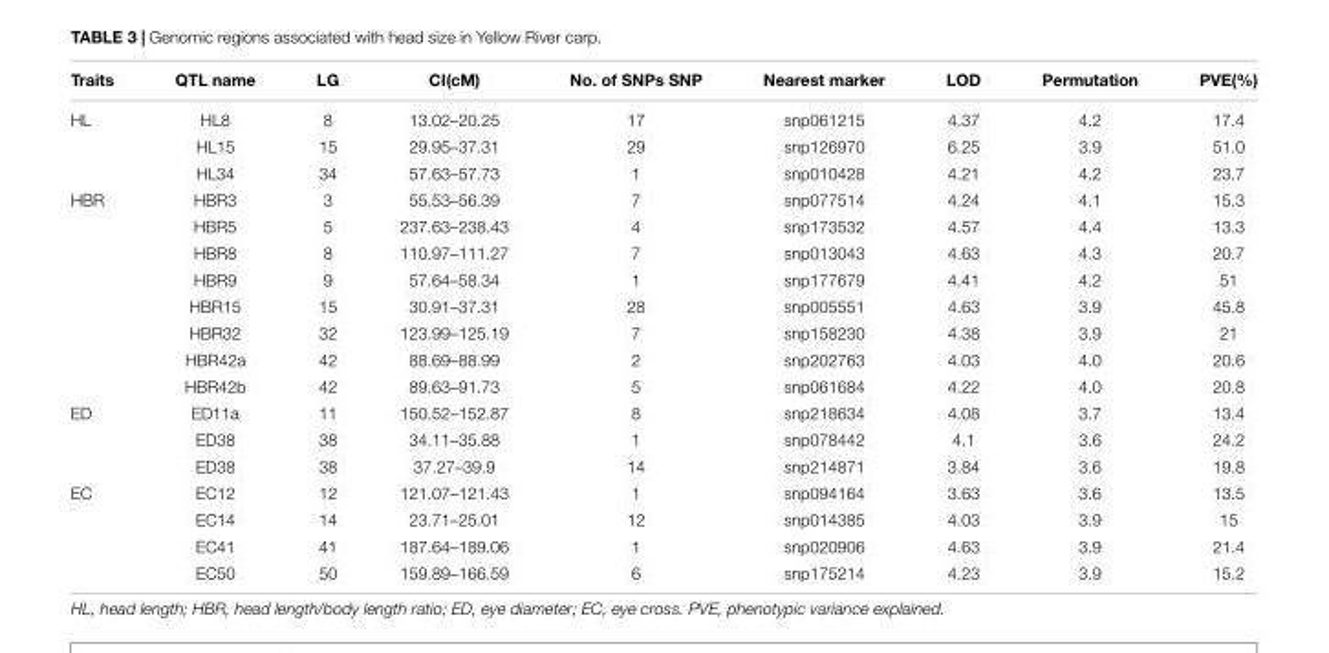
<table><thead><tr><td>Traits</td><td>QTL name</td><td>LG</td><td>CI(cM)</td><td>No. of SNPs SNP</td><td>Nearest marker</td><td>LOD</td><td>Permutation</td><td>PVE(%)</td></tr></thead><tbody><tr><td rowspan="3">HL</td><td>HL8</td><td>8</td><td>13.02–20.25</td><td>17</td><td>snp061215</td><td>4.37</td><td>4.2</td><td>17.4</td></tr><tr><td>HL15</td><td>15</td><td>29.95–37.31</td><td>29</td><td>snp126970</td><td>6.25</td><td>3.9</td><td>51.0</td></tr><tr><td>HL34</td><td>34</td><td>57.63–57.73</td><td>1</td><td>snp010428</td><td>4.21</td><td>4.2</td><td>23.7</td></tr><tr><td rowspan="8">HBR</td><td>HBR3</td><td>3</td><td>55.53–56.39</td><td>7</td><td>snp077514</td><td>4.24</td><td>4.1</td><td>15.3</td></tr><tr><td>HBR5</td><td>5</td><td>237.63–238.43</td><td>4</td><td>snp173532</td><td>4.57</td><td>4.4</td><td>13.3</td></tr><tr><td>HBR8</td><td>8</td><td>110.97–111.27</td><td>7</td><td>snp013043</td><td>4.63</td><td>4.3</td><td>20.7</td></tr><tr><td>HBR9</td><td>9</td><td>57.64–58.34</td><td>1</td><td>snp177679</td><td>4.41</td><td>4.2</td><td>51</td></tr><tr><td>HBR15</td><td>15</td><td>30.91–37.31</td><td>28</td><td>snp005551</td><td>4.63</td><td>3.9</td><td>45.8</td></tr><tr><td>HBR32</td><td>32</td><td>123.99–125.19</td><td>7</td><td>snp158230</td><td>4.38</td><td>3.9</td><td>21</td></tr><tr><td>HBR42a</td><td>42</td><td>88.69–88.99</td><td>2</td><td>snp202763</td><td>4.03</td><td>4.0</td><td>20.6</td></tr><tr><td>HBR42b</td><td>42</td><td>89.63–91.73</td><td>5</td><td>snp061684</td><td>4.22</td><td>4.0</td><td>20.8</td></tr><tr><td rowspan="3">ED</td><td>ED11a</td><td>11</td><td>150.52–152.87</td><td>8</td><td>snp218634</td><td>4.08</td><td>3.7</td><td>13.4</td></tr><tr><td>ED38</td><td>38</td><td>34.11–35.88</td><td>1</td><td>snp078442</td><td>4.1</td><td>3.6</td><td>24.2</td></tr><tr><td>ED38</td><td>38</td><td>37.27–39.9</td><td>14</td><td>snp214871</td><td>3.84</td><td>3.6</td><td>19.8</td></tr><tr><td rowspan="4">EC</td><td>EC12</td><td>12</td><td>121.07–121.43</td><td>1</td><td>snp094164</td><td>3.63</td><td>3.6</td><td>13.5</td></tr><tr><td>EC14</td><td>14</td><td>23.71–25.01</td><td>12</td><td>snp014385</td><td>4.03</td><td>3.9</td><td>15</td></tr><tr><td>EC41</td><td>41</td><td>187.64–189.06</td><td>1</td><td>snp020906</td><td>4.63</td><td>3.9</td><td>21.4</td></tr><tr><td>EC50</td><td>50</td><td>159.89–166.59</td><td>6</td><td>snp175214</td><td>4.23</td><td>3.9</td><td>15.2</td></tr></tbody></table>